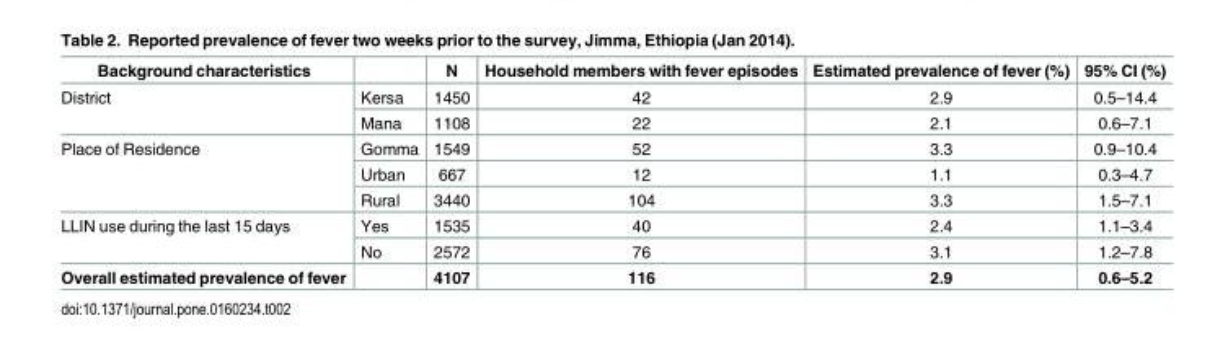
<table><thead><tr><td>Background characteristics</td><td></td><td>N</td><td>Household members with fever episodes</td><td>Estimated prevalence of fever (%)</td><td>95% CI (%)</td></tr></thead><tbody><tr><td rowspan="2">District</td><td>Kersa</td><td>1450</td><td>42</td><td>2.9</td><td>0.5–14.4</td></tr><tr><td>Mana</td><td>1108</td><td>22</td><td>2.1</td><td>0.6–7.1</td></tr><tr><td rowspan="3">Place of Residence</td><td>Gomma</td><td>1549</td><td>52</td><td>3.3</td><td>0.9–10.4</td></tr><tr><td>Urban</td><td>667</td><td>12</td><td>1.1</td><td>0.3–4.7</td></tr><tr><td>Rural</td><td>3440</td><td>104</td><td>3.3</td><td>1.5–7.1</td></tr><tr><td rowspan="2">LLIN use during the last 15 days</td><td>Yes</td><td>1535</td><td>40</td><td>2.4</td><td>1.1–3.4</td></tr><tr><td>No</td><td>2572</td><td>76</td><td>3.1</td><td>1.2–7.8</td></tr><tr><td>Overall estimated prevalence of fever</td><td></td><td>4107</td><td>116</td><td>2.9</td><td>0.6–5.2</td></tr></tbody></table>